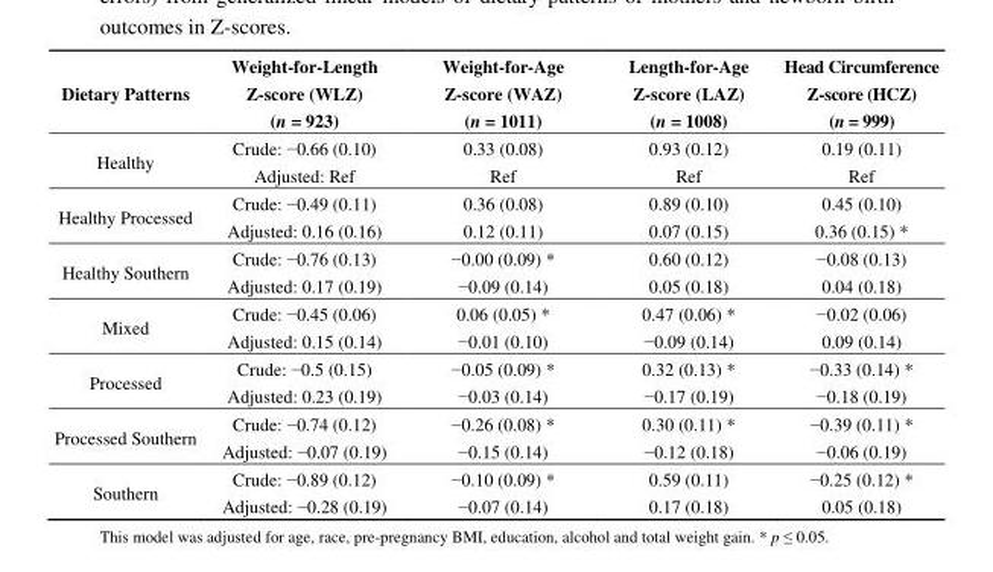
<table><thead><tr><td>Dietary Patterns</td><td>Weight-for-Length Z-score (WLZ) (n = 923)</td><td>Weight-for-Age Z-score (WAZ) (n = 1011)</td><td>Length-for-Age Z-score (LAZ) (n = 1008)</td><td>Head Circumference Z-score (HCZ) (n = 999)</td></tr></thead><tbody><tr><td>Healthy</td><td>Crude: −0.66 (0.10) Adjusted: Ref</td><td>0.33 (0.08) Ref</td><td>0.93 (0.12) Ref</td><td>0.19 (0.11) Ref</td></tr><tr><td>Healthy Processed</td><td>Crude: −0.49 (0.11) Adjusted: 0.16 (0.16)</td><td>0.36 (0.08) 0.12 (0.11)</td><td>0.89 (0.10) 0.07 (0.15)</td><td>0.45 (0.10) 0.36 (0.15) *</td></tr><tr><td>Healthy Southern</td><td>Crude: −0.76 (0.13) Adjusted: 0.17 (0.19)</td><td>−0.00 (0.09) * −0.09 (0.14)</td><td>0.60 (0.12) 0.05 (0.18)</td><td>−0.08 (0.13) 0.04 (0.18)</td></tr><tr><td>Mixed</td><td>Crude: −0.45 (0.06) Adjusted: 0.15 (0.14)</td><td>0.06 (0.05) * −0.01 (0.10)</td><td>0.47 (0.06) * −0.09 (0.14)</td><td>−0.02 (0.06) 0.09 (0.14)</td></tr><tr><td>Processed</td><td>Crude: −0.5 (0.15) Adjusted: 0.23 (0.19)</td><td>−0.05 (0.09) * −0.03 (0.14)</td><td>0.32 (0.13) * −0.17 (0.19)</td><td>−0.33 (0.14) * −0.18 (0.19)</td></tr><tr><td>Processed Southern</td><td>Crude: −0.74 (0.12) Adjusted: −0.07 (0.19)</td><td>−0.26 (0.08) * −0.15 (0.14)</td><td>0.30 (0.11) * −0.12 (0.18)</td><td>−0.39 (0.11) * −0.06 (0.19)</td></tr><tr><td>Southern</td><td>Crude: −0.89 (0.12) Adjusted: −0.28 (0.19)</td><td>−0.10 (0.09) * −0.07 (0.14)</td><td>0.59 (0.11) 0.17 (0.18)</td><td>−0.25 (0.12) * 0.05 (0.18)</td></tr></tbody></table>